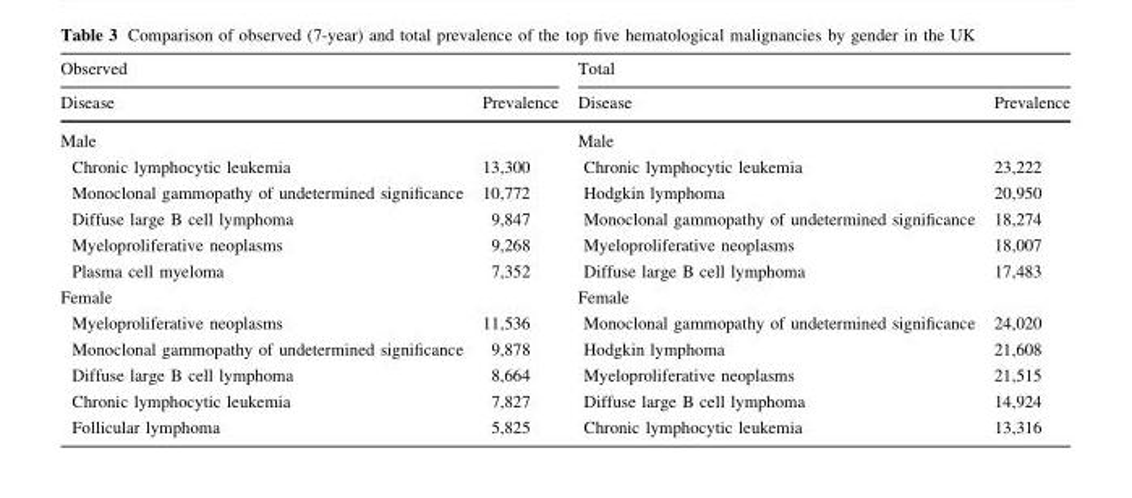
<table><thead><tr><td colspan="2">Observed</td><td colspan="2">Total</td></tr><tr><td>Disease</td><td>Prevalence</td><td>Disease</td><td>Prevalence</td></tr></thead><tbody><tr><td>Male</td><td></td><td>Male</td><td></td></tr><tr><td>Chronic lymphocytic leukemia</td><td>13,300</td><td>Chronic lymphocytic leukemia</td><td>23,222</td></tr><tr><td>Monoclonal gammopathy of undetermined significance</td><td>10,772</td><td>Hodgkin lymphoma</td><td>20,950</td></tr><tr><td>Diffuse large B cell lymphoma</td><td>9,847</td><td>Monoclonal gammopathy of undetermined significance</td><td>18,274</td></tr><tr><td>Myeloproliferative neoplasms</td><td>9,268</td><td>Myeloproliferative neoplasms</td><td>18,007</td></tr><tr><td>Plasma cell myeloma</td><td>7,352</td><td>Diffuse large B cell lymphoma</td><td>17,483</td></tr><tr><td>Female</td><td></td><td>Female</td><td></td></tr><tr><td>Myeloproliferative neoplasms</td><td>11,536</td><td>Monoclonal gammopathy of undetermined significance</td><td>24,020</td></tr><tr><td>Monoclonal gammopathy of undetermined significance</td><td>9,878</td><td>Hodgkin lymphoma</td><td>21,608</td></tr><tr><td>Diffuse large B cell lymphoma</td><td>8,664</td><td>Myeloproliferative neoplasms</td><td>21,515</td></tr><tr><td>Chronic lymphocytic leukemia</td><td>7,827</td><td>Diffuse large B cell lymphoma</td><td>14,924</td></tr><tr><td>Follicular lymphoma</td><td>5,825</td><td>Chronic lymphocytic leukemia</td><td>13,316</td></tr></tbody></table>